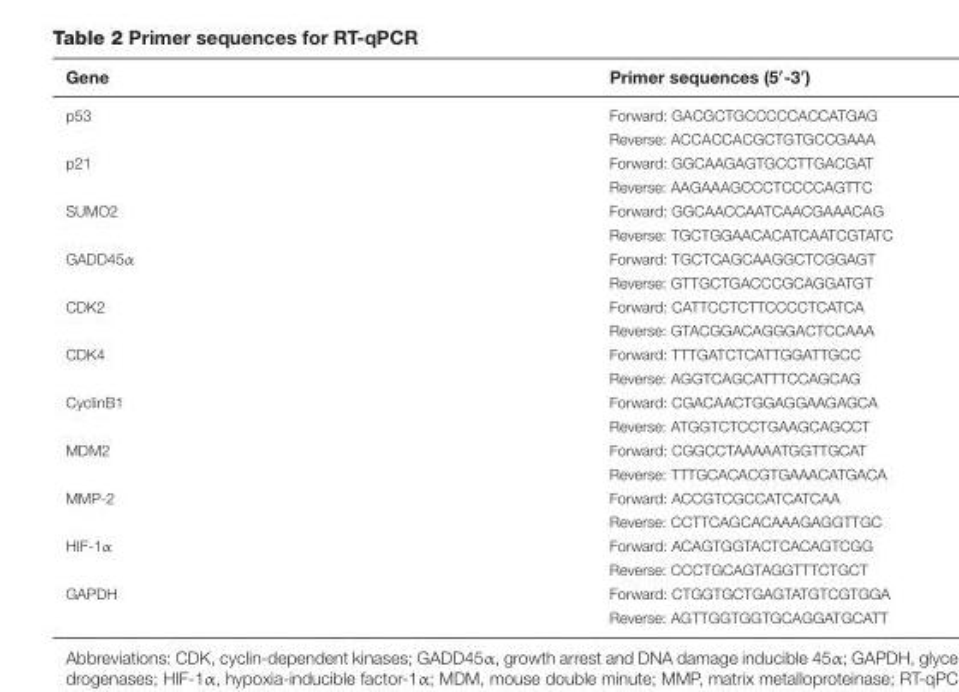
<table><thead><tr><td>Gene</td><td>Primer sequences (5′-3′)</td></tr></thead><tbody><tr><td rowspan="2">p53</td><td>Forward: GACGCTGCCCCCACCATGAG</td></tr><tr><td>Reverse: ACCACCACGCTGTGCCGAAA</td></tr><tr><td rowspan="2">p21</td><td>Forward: GGCAAGAGTGCCTTGACGAT</td></tr><tr><td>Reverse: AAGAAAGCCCTCCCCAGTTC</td></tr><tr><td rowspan="2">SUMO2</td><td>Forward: GGCAACCAATCAACGAAACAG</td></tr><tr><td>Reverse: TGCTGGAACACATCAATCGTATC</td></tr><tr><td rowspan="2">GADD45α</td><td>Forward: TGCTCAGCAAGGCTCGGAGT</td></tr><tr><td>Reverse: GTTGCTGACCCGCAGGATGT</td></tr><tr><td rowspan="2">CDK2</td><td>Forward: CATTCCTCTTCCCCTCATCA</td></tr><tr><td>Reverse: GTACGGACAGGGACTCCAAA</td></tr><tr><td rowspan="2">CDK4</td><td>Forward: TTTGATCTCATTGGATTGCC</td></tr><tr><td>Reverse: AGGTCAGCATTTCCAGCAG</td></tr><tr><td rowspan="2">CyclinB1</td><td>Forward: CGACAACTGGAGGAAGAGCA</td></tr><tr><td>Reverse: ATGGTCTCCTGAAGCAGCCT</td></tr><tr><td rowspan="2">MDM2</td><td>Forward: CGGCCTAAAAATGGTTGCAT</td></tr><tr><td>Reverse: TTTGCACACGTGAAACATGACA</td></tr><tr><td rowspan="2">MMP-2</td><td>Forward: ACCGTCGCCATCATCAA</td></tr><tr><td>Reverse: CCTTCAGCACAAAGAGGTTGC</td></tr><tr><td rowspan="2">HIF-1α</td><td>Forward: ACAGTGGTACTCACAGTCGG</td></tr><tr><td>Reverse: CCCTGCAGTAGGTTTCTGCT</td></tr><tr><td rowspan="2">GAPDH</td><td>Forward: CTGGTGCTGAGTATGTCGTGGA</td></tr><tr><td>Reverse: AGTTGGTGGTGCAGGATGCATT</td></tr></tbody></table>